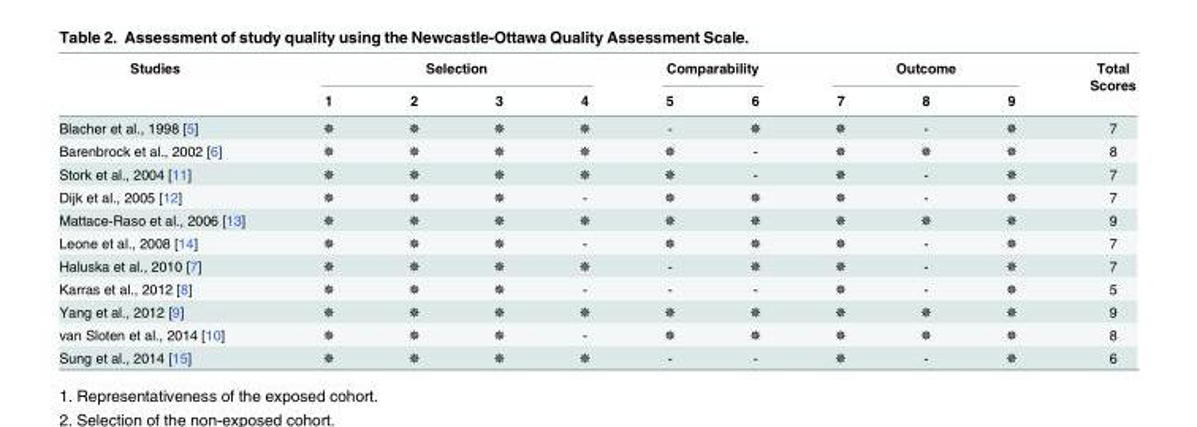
<table><thead><tr><td rowspan="2">Studies</td><td colspan="4">Selection</td><td colspan="2">Comparability</td><td colspan="3">Outcome</td><td rowspan="2">Total Scores</td></tr><tr><td>1</td><td>2</td><td>3</td><td>4</td><td>5</td><td>6</td><td>7</td><td>8</td><td>9</td></tr></thead><tbody><tr><td>Blacher et al., 1998 [5]</td><td>✵</td><td>✵</td><td>✵</td><td>✵</td><td>-</td><td>✵</td><td>✵</td><td>-</td><td>✵</td><td>7</td></tr><tr><td>Barenbrock et al., 2002 [6]</td><td>✵</td><td>✵</td><td>✵</td><td>✵</td><td>✵</td><td>-</td><td>✵</td><td>✵</td><td>✵</td><td>8</td></tr><tr><td>Stork et al., 2004 [11]</td><td>✵</td><td>✵</td><td>✵</td><td>✵</td><td>✵</td><td>-</td><td>✵</td><td>-</td><td>✵</td><td>7</td></tr><tr><td>Dijk et al., 2005 [12]</td><td>✵</td><td>✵</td><td>✵</td><td>-</td><td>✵</td><td>✵</td><td>✵</td><td>-</td><td>✵</td><td>7</td></tr><tr><td>Mattace-Raso et al., 2006 [13]</td><td>✵</td><td>✵</td><td>✵</td><td>✵</td><td>✵</td><td>✵</td><td>✵</td><td>✵</td><td>✵</td><td>9</td></tr><tr><td>Leone et al., 2008 [14]</td><td>✵</td><td>✵</td><td>✵</td><td>-</td><td>✵</td><td>✵</td><td>✵</td><td>-</td><td>✵</td><td>7</td></tr><tr><td>Haluska et al., 2010 [7]</td><td>✵</td><td>✵</td><td>✵</td><td>✵</td><td>-</td><td>✵</td><td>✵</td><td>-</td><td>✵</td><td>7</td></tr><tr><td>Karras et al., 2012 [8]</td><td>✵</td><td>✵</td><td>✵</td><td>-</td><td>-</td><td>-</td><td>✵</td><td>-</td><td>✵</td><td>5</td></tr><tr><td>Yang et al., 2012 [9]</td><td>✵</td><td>✵</td><td>✵</td><td>✵</td><td>✵</td><td>✵</td><td>✵</td><td>✵</td><td>✵</td><td>9</td></tr><tr><td>van Sloten et al., 2014 [10]</td><td>✵</td><td>✵</td><td>✵</td><td>-</td><td>✵</td><td>✵</td><td>✵</td><td>✵</td><td>✵</td><td>8</td></tr><tr><td>Sung et al., 2014 [15]</td><td>✵</td><td>✵</td><td>✵</td><td>✵</td><td>-</td><td>-</td><td>✵</td><td>-</td><td>✵</td><td>6</td></tr></tbody></table>